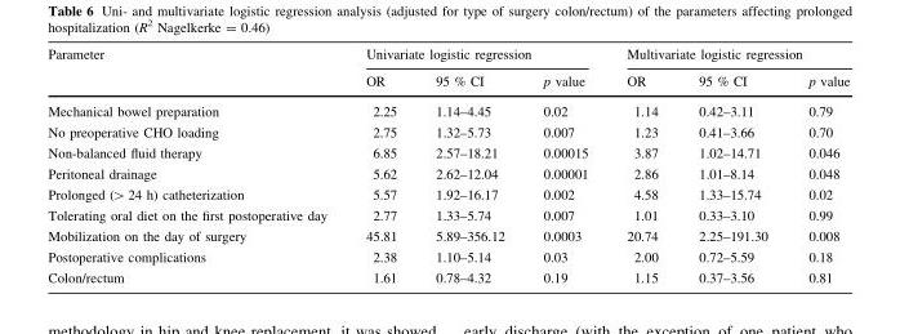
<table><thead><tr><td rowspan="2">Parameter</td><td colspan="3">Univariate logistic regression</td><td colspan="3">Multivariate logistic regression</td></tr><tr><td>OR</td><td>95 % CI</td><td>p value</td><td>OR</td><td>95 % CI</td><td>p value</td></tr></thead><tbody><tr><td>Mechanical bowel preparation</td><td>2.25</td><td>1.14–4.45</td><td>0.02</td><td>1.14</td><td>0.42–3.11</td><td>0.79</td></tr><tr><td>No preoperative CHO loading</td><td>2.75</td><td>1.32–5.73</td><td>0.007</td><td>1.23</td><td>0.41–3.66</td><td>0.70</td></tr><tr><td>Non-balanced fluid therapy</td><td>6.85</td><td>2.57–18.21</td><td>0.00015</td><td>3.87</td><td>1.02–14.71</td><td>0.046</td></tr><tr><td>Peritoneal drainage</td><td>5.62</td><td>2.62–12.04</td><td>0.00001</td><td>2.86</td><td>1.01–8.14</td><td>0.048</td></tr><tr><td>Prolonged (&gt; 24 h) catheterization</td><td>5.57</td><td>1.92–16.17</td><td>0.002</td><td>4.58</td><td>1.33–15.74</td><td>0.02</td></tr><tr><td>Tolerating oral diet on the first postoperative day</td><td>2.77</td><td>1.33–5.74</td><td>0.007</td><td>1.01</td><td>0.33–3.10</td><td>0.99</td></tr><tr><td>Mobilization on the day of surgery</td><td>45.81</td><td>5.89–356.12</td><td>0.0003</td><td>20.74</td><td>2.25–191.30</td><td>0.008</td></tr><tr><td>Postoperative complications</td><td>2.38</td><td>1.10–5.14</td><td>0.03</td><td>2.00</td><td>0.72–5.59</td><td>0.18</td></tr><tr><td>Colon/rectum</td><td>1.61</td><td>0.78–4.32</td><td>0.19</td><td>1.15</td><td>0.37–3.56</td><td>0.81</td></tr></tbody></table>